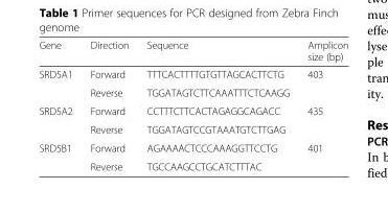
<table><thead><tr><td>Gene</td><td>Direction</td><td>Sequence</td><td>Amplicon size (bp)</td></tr></thead><tbody><tr><td rowspan="2">SRD5A1</td><td>Forward</td><td>TTTCACTTTTGTGTTAGCACTTCTG</td><td rowspan="2">403</td></tr><tr><td>Reverse</td><td>TGGATAGTCTTCAAATTTCTCAAGG</td></tr><tr><td rowspan="2">SRD5A2</td><td>Forward</td><td>CCTTTCTTCACTAGAGGCAGACC</td><td rowspan="2">435</td></tr><tr><td>Reverse</td><td>TGGATAGTCCGTAAATGTCTTGAG</td></tr><tr><td rowspan="2">SRD5B1</td><td>Forward</td><td>AGAAAACTCCCAAAGGTTCCTG</td><td rowspan="2">401</td></tr><tr><td>Reverse</td><td>TGCCAAGCCTGCATCTTTAC</td></tr></tbody></table>